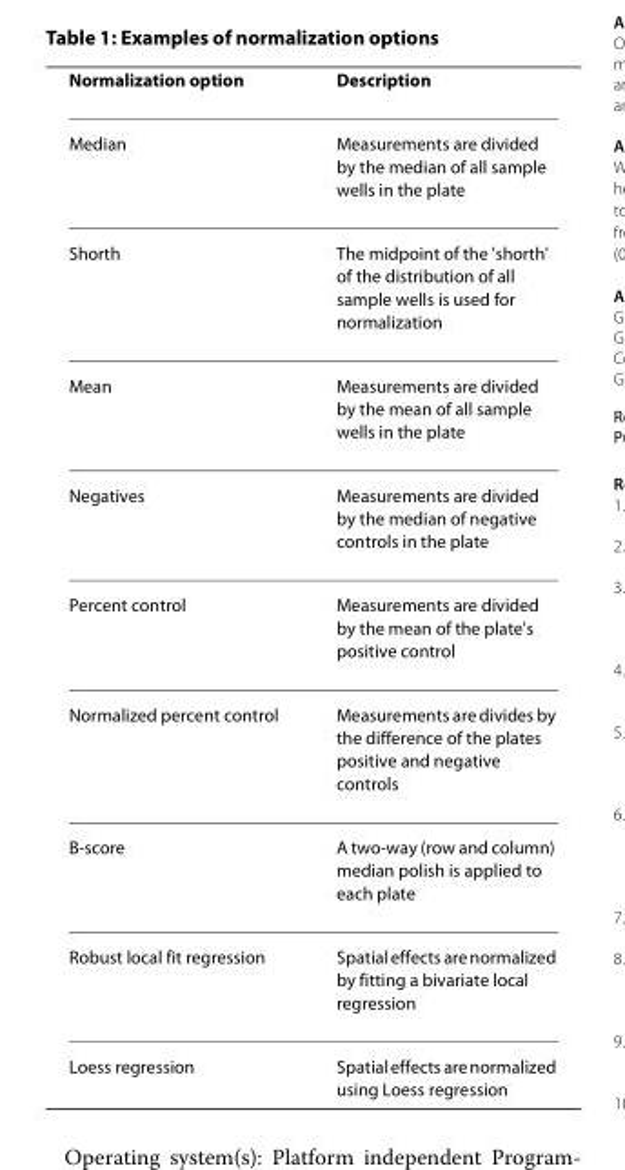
<table><thead><tr><td>Normalization option</td><td>Description</td></tr></thead><tbody><tr><td>Median</td><td>Measurements are divided by the median of all sample wells in the plate</td></tr><tr><td>Shorth</td><td>The midpoint of the &#x27;shorth&#x27; of the distribution of all sample wells is used for normalization</td></tr><tr><td>Mean</td><td>Measurements are divided by the mean of all sample wells in the plate</td></tr><tr><td>Negatives</td><td>Measurements are divided by the median of negative controls in the plate</td></tr><tr><td>Percent control</td><td>Measurements are divided by the mean of the plate&#x27;s positive control</td></tr><tr><td>Normalized percent control</td><td>Measurements are divides by the difference of the plates positive and negative controls</td></tr><tr><td>B-score</td><td>A two-way (row and column) median polish is applied to each plate</td></tr><tr><td>Robust local fit regression</td><td>Spatial effects are normalized by fitting a bivariate local regression</td></tr><tr><td>Loess regression</td><td>Spatial effects are normalized using Loess regression</td></tr></tbody></table>